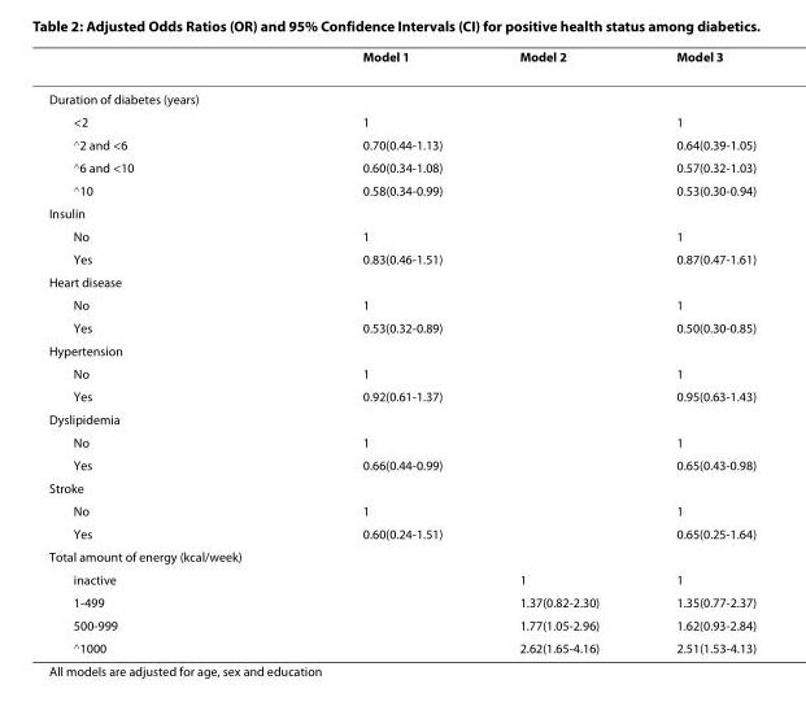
<table><thead><tr><td></td><td>Model 1</td><td>Model 2</td><td>Model 3</td></tr></thead><tbody><tr><td colspan="4">Duration of diabetes (years)</td></tr><tr><td>&lt;2</td><td>1</td><td></td><td>1</td></tr><tr><td>≧2 and &lt;6</td><td>0.70(0.44-1.13)</td><td></td><td>0.64(0.39-1.05)</td></tr><tr><td>≧6 and &lt;10</td><td>0.60(0.34-1.08)</td><td></td><td>0.57(0.32-1.03)</td></tr><tr><td>≧10</td><td>0.58(0.34-0.99)</td><td></td><td>0.53(0.30-0.94)</td></tr><tr><td colspan="4">Insulin</td></tr><tr><td>No</td><td>1</td><td></td><td>1</td></tr><tr><td>Yes</td><td>0.83(0.46-1.51)</td><td></td><td>0.87(0.47-1.61)</td></tr><tr><td colspan="4">Heart disease</td></tr><tr><td>No</td><td>1</td><td></td><td>1</td></tr><tr><td>Yes</td><td>0.53(0.32-0.89)</td><td></td><td>0.50(0.30-0.85)</td></tr><tr><td colspan="4">Hypertension</td></tr><tr><td>No</td><td>1</td><td></td><td>1</td></tr><tr><td>Yes</td><td>0.92(0.61-1.37)</td><td></td><td>0.95(0.63-1.43)</td></tr><tr><td colspan="4">Dyslipidemia</td></tr><tr><td>No</td><td>1</td><td></td><td>1</td></tr><tr><td>Yes</td><td>0.66(0.44-0.99)</td><td></td><td>0.65(0.43-0.98)</td></tr><tr><td colspan="4">Stroke</td></tr><tr><td>No</td><td>1</td><td></td><td>1</td></tr><tr><td>Yes</td><td>0.60(0.24-1.51)</td><td></td><td>0.65(0.25-1.64)</td></tr><tr><td colspan="4">Total amount of energy (kcal/week)</td></tr><tr><td>inactive</td><td></td><td>1</td><td>1</td></tr><tr><td>1-499</td><td></td><td>1.37(0.82-2.30)</td><td>1.35(0.77-2.37)</td></tr><tr><td>500-999</td><td></td><td>1.77(1.05-2.96)</td><td>1.62(0.93-2.84)</td></tr><tr><td>≧1000</td><td></td><td>2.62(1.65-4.16)</td><td>2.51(1.53-4.13)</td></tr></tbody></table>